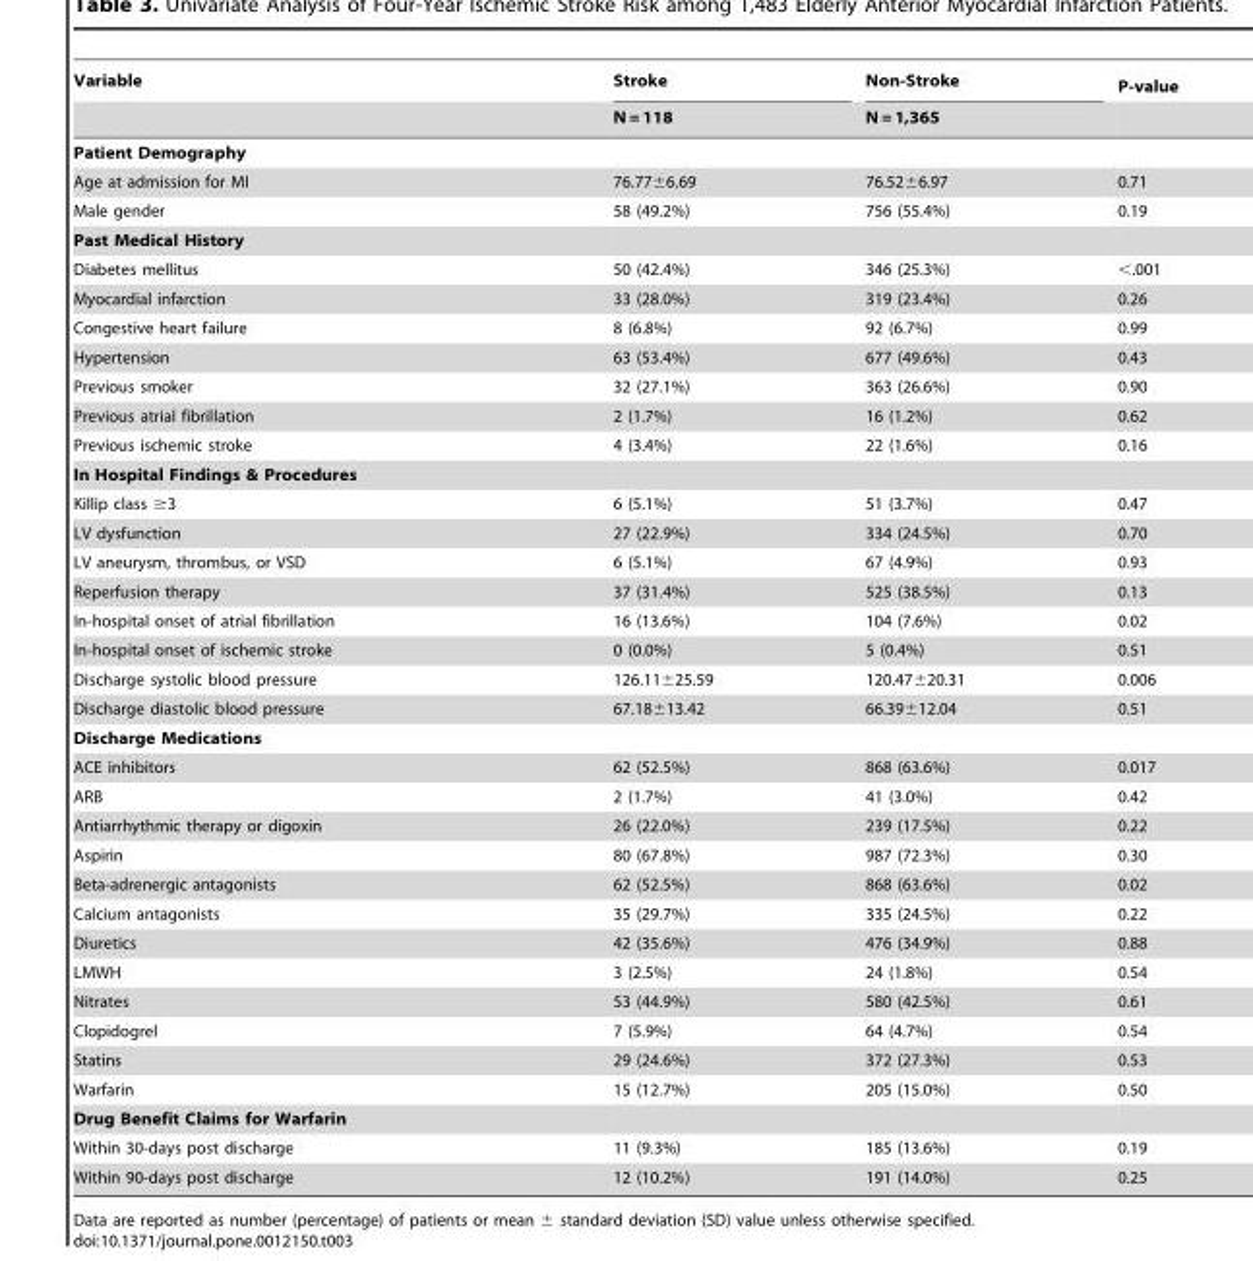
<table><thead><tr><td rowspan="2">Variable</td><td rowspan="2">Stroke N = 118</td><td rowspan="2">Non-Stroke N = 1,365</td><td rowspan="2">P-value</td></tr><tr></tr></thead><tbody><tr><td colspan="4">Patient Demography</td></tr><tr><td>Age at admission for MI</td><td>76.77±6.69</td><td>76.52±6.97</td><td>0.71</td></tr><tr><td>Male gender</td><td>58 (49.2%)</td><td>756 (55.4%)</td><td>0.19</td></tr><tr><td colspan="4">Past Medical History</td></tr><tr><td>Diabetes mellitus</td><td>50 (42.4%)</td><td>346 (25.3%)</td><td>&lt;.001</td></tr><tr><td>Myocardial infarction</td><td>33 (28.0%)</td><td>319 (23.4%)</td><td>0.26</td></tr><tr><td>Congestive heart failure</td><td>8 (6.8%)</td><td>92 (6.7%)</td><td>0.99</td></tr><tr><td>Hypertension</td><td>63 (53.4%)</td><td>677 (49.6%)</td><td>0.43</td></tr><tr><td>Previous smoker</td><td>32 (27.1%)</td><td>363 (26.6%)</td><td>0.90</td></tr><tr><td>Previous atrial fibrillation</td><td>2 (1.7%)</td><td>16 (1.2%)</td><td>0.62</td></tr><tr><td>Previous ischemic stroke</td><td>4 (3.4%)</td><td>22 (1.6%)</td><td>0.16</td></tr><tr><td colspan="4">In Hospital Findings &amp; Procedures</td></tr><tr><td>Killip class ≥3</td><td>6 (5.1%)</td><td>51 (3.7%)</td><td>0.47</td></tr><tr><td>LV dysfunction</td><td>27 (22.9%)</td><td>334 (24.5%)</td><td>0.70</td></tr><tr><td>LV aneurysm, thrombus, or VSD</td><td>6 (5.1%)</td><td>67 (4.9%)</td><td>0.93</td></tr><tr><td>Reperfusion therapy</td><td>37 (31.4%)</td><td>525 (38.5%)</td><td>0.13</td></tr><tr><td>In-hospital onset of atrial fibrillation</td><td>16 (13.6%)</td><td>104 (7.6%)</td><td>0.02</td></tr><tr><td>In-hospital onset of ischemic stroke</td><td>0 (0.0%)</td><td>5 (0.4%)</td><td>0.51</td></tr><tr><td>Discharge systolic blood pressure</td><td>126.11±25.59</td><td>120.47±20.31</td><td>0.006</td></tr><tr><td>Discharge diastolic blood pressure</td><td>67.18±13.42</td><td>66.39±12.04</td><td>0.51</td></tr><tr><td colspan="4">Discharge Medications</td></tr><tr><td>ACE inhibitors</td><td>62 (52.5%)</td><td>868 (63.6%)</td><td>0.017</td></tr><tr><td>ARB</td><td>2 (1.7%)</td><td>41 (3.0%)</td><td>0.42</td></tr><tr><td>Antiarrhythmic therapy or digoxin</td><td>26 (22.0%)</td><td>239 (17.5%)</td><td>0.22</td></tr><tr><td>Aspirin</td><td>80 (67.8%)</td><td>987 (72.3%)</td><td>0.30</td></tr><tr><td>Beta-adrenergic antagonists</td><td>62 (52.5%)</td><td>868 (63.6%)</td><td>0.02</td></tr><tr><td>Calcium antagonists</td><td>35 (29.7%)</td><td>335 (24.5%)</td><td>0.22</td></tr><tr><td>Diuretics</td><td>42 (35.6%)</td><td>476 (34.9%)</td><td>0.88</td></tr><tr><td>LMWH</td><td>3 (2.5%)</td><td>24 (1.8%)</td><td>0.54</td></tr><tr><td>Nitrates</td><td>53 (44.9%)</td><td>580 (42.5%)</td><td>0.61</td></tr><tr><td>Clopidogrel</td><td>7 (5.9%)</td><td>64 (4.7%)</td><td>0.54</td></tr><tr><td>Statins</td><td>29 (24.6%)</td><td>372 (27.3%)</td><td>0.53</td></tr><tr><td>Warfarin</td><td>15 (12.7%)</td><td>205 (15.0%)</td><td>0.50</td></tr><tr><td colspan="4">Drug Benefit Claims for Warfarin</td></tr><tr><td>Within 30-days post discharge</td><td>11 (9.3%)</td><td>185 (13.6%)</td><td>0.19</td></tr><tr><td>Within 90-days post discharge</td><td>12 (10.2%)</td><td>191 (14.0%)</td><td>0.25</td></tr></tbody></table>